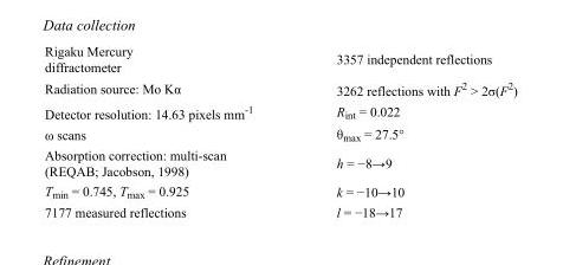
<table><tbody><tr><td>Rigaku Mercury diffractometer</td><td>3357 independent reflections</td></tr><tr><td>Radiation source: Mo Kα</td><td>3262 reflections with F<sup>2</sup> &gt; 2σ(F<sup>2</sup>)</td></tr><tr><td>Detector resolution: 14.63 pixels mm<sup>-1</sup></td><td>R<sub>int</sub> = 0.022</td></tr><tr><td>ω scans</td><td>θ<sub>max</sub> = 27.5°</td></tr><tr><td>Absorption correction: multi-scan (REQAB; Jacobson, 1998)</td><td>h = −8→9</td></tr><tr><td>T<sub>min</sub> = 0.745, T<sub>max</sub> = 0.925</td><td>k = −10→10</td></tr><tr><td>7177 measured reflections</td><td>l = −18→17</td></tr></tbody></table>